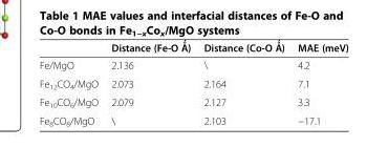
<table><thead><tr><td></td><td>Distance (Fe-O Ǻ)</td><td>Distance (Co-O Ǻ)</td><td>MAE (meV)</td></tr></thead><tbody><tr><td>Fe/MgO</td><td>2.136</td><td>\</td><td>4.2</td></tr><tr><td>Fe<sub>12</sub>CO<sub>4</sub>/MgO</td><td>2.073</td><td>2.164</td><td>7.1</td></tr><tr><td>Fe<sub>10</sub>CO<sub>6</sub>/MgO</td><td>2.079</td><td>2.127</td><td>3.3</td></tr><tr><td>Fe<sub>8</sub>CO<sub>8</sub>/MgO</td><td>\</td><td>2.103</td><td>−17.1</td></tr></tbody></table>